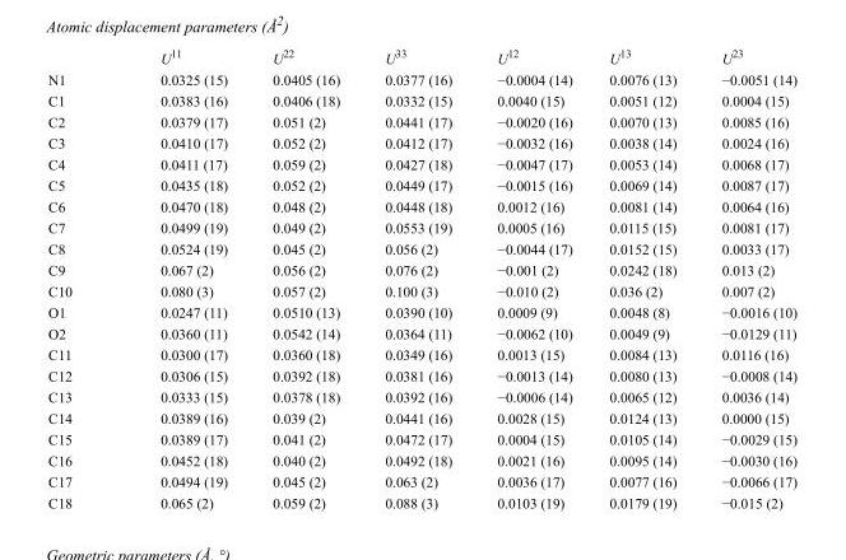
<table><thead><tr><td></td><td>U<sup>11</sup></td><td>U<sup>22</sup></td><td>U<sup>33</sup></td><td>U<sup>12</sup></td><td>U<sup>13</sup></td><td>U<sup>23</sup></td></tr></thead><tbody><tr><td>N1</td><td>0.0325 (15)</td><td>0.0405 (16)</td><td>0.0377 (16)</td><td>−0.0004 (14)</td><td>0.0076 (13)</td><td>−0.0051 (14)</td></tr><tr><td>C1</td><td>0.0383 (16)</td><td>0.0406 (18)</td><td>0.0332 (15)</td><td>0.0040 (15)</td><td>0.0051 (12)</td><td>0.0004 (15)</td></tr><tr><td>C2</td><td>0.0379 (17)</td><td>0.051 (2)</td><td>0.0441 (17)</td><td>−0.0020 (16)</td><td>0.0070 (13)</td><td>0.0085 (16)</td></tr><tr><td>C3</td><td>0.0410 (17)</td><td>0.052 (2)</td><td>0.0412 (17)</td><td>−0.0032 (16)</td><td>0.0038 (14)</td><td>0.0024 (16)</td></tr><tr><td>C4</td><td>0.0411 (17)</td><td>0.059 (2)</td><td>0.0427 (18)</td><td>−0.0047 (17)</td><td>0.0053 (14)</td><td>0.0068 (17)</td></tr><tr><td>C5</td><td>0.0435 (18)</td><td>0.052 (2)</td><td>0.0449 (17)</td><td>−0.0015 (16)</td><td>0.0069 (14)</td><td>0.0087 (17)</td></tr><tr><td>C6</td><td>0.0470 (18)</td><td>0.048 (2)</td><td>0.0448 (18)</td><td>0.0012 (16)</td><td>0.0081 (14)</td><td>0.0064 (16)</td></tr><tr><td>C7</td><td>0.0499 (19)</td><td>0.049 (2)</td><td>0.0553 (19)</td><td>0.0005 (16)</td><td>0.0115 (15)</td><td>0.0081 (17)</td></tr><tr><td>C8</td><td>0.0524 (19)</td><td>0.045 (2)</td><td>0.056 (2)</td><td>−0.0044 (17)</td><td>0.0152 (15)</td><td>0.0033 (17)</td></tr><tr><td>C9</td><td>0.067 (2)</td><td>0.056 (2)</td><td>0.076 (2)</td><td>−0.001 (2)</td><td>0.0242 (18)</td><td>0.013 (2)</td></tr><tr><td>C10</td><td>0.080 (3)</td><td>0.057 (2)</td><td>0.100 (3)</td><td>−0.010 (2)</td><td>0.036 (2)</td><td>0.007 (2)</td></tr><tr><td>O1</td><td>0.0247 (11)</td><td>0.0510 (13)</td><td>0.0390 (10)</td><td>0.0009 (9)</td><td>0.0048 (8)</td><td>−0.0016 (10)</td></tr><tr><td>O2</td><td>0.0360 (11)</td><td>0.0542 (14)</td><td>0.0364 (11)</td><td>−0.0062 (10)</td><td>0.0049 (9)</td><td>−0.0129 (11)</td></tr><tr><td>C11</td><td>0.0300 (17)</td><td>0.0360 (18)</td><td>0.0349 (16)</td><td>0.0013 (15)</td><td>0.0084 (13)</td><td>0.0116 (16)</td></tr><tr><td>C12</td><td>0.0306 (15)</td><td>0.0392 (18)</td><td>0.0381 (16)</td><td>−0.0013 (14)</td><td>0.0080 (13)</td><td>−0.0008 (14)</td></tr><tr><td>C13</td><td>0.0333 (15)</td><td>0.0378 (18)</td><td>0.0392 (16)</td><td>−0.0006 (14)</td><td>0.0065 (12)</td><td>0.0036 (14)</td></tr><tr><td>C14</td><td>0.0389 (16)</td><td>0.039 (2)</td><td>0.0441 (16)</td><td>0.0028 (15)</td><td>0.0124 (13)</td><td>0.0000 (15)</td></tr><tr><td>C15</td><td>0.0389 (17)</td><td>0.041 (2)</td><td>0.0472 (17)</td><td>0.0004 (15)</td><td>0.0105 (14)</td><td>−0.0029 (15)</td></tr><tr><td>C16</td><td>0.0452 (18)</td><td>0.040 (2)</td><td>0.0492 (18)</td><td>0.0021 (16)</td><td>0.0095 (14)</td><td>−0.0030 (16)</td></tr><tr><td>C17</td><td>0.0494 (19)</td><td>0.045 (2)</td><td>0.063 (2)</td><td>0.0036 (17)</td><td>0.0077 (16)</td><td>−0.0066 (17)</td></tr><tr><td>C18</td><td>0.065 (2)</td><td>0.059 (2)</td><td>0.088 (3)</td><td>0.0103 (19)</td><td>0.0179 (19)</td><td>−0.015 (2)</td></tr></tbody></table>